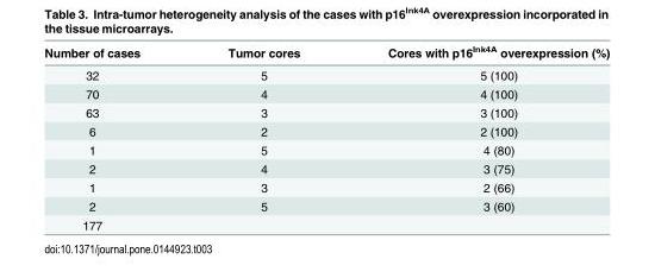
<table><thead><tr><td>Number of cases</td><td>Tumor cores</td><td>Cores with p16<sup>Ink4A</sup> overexpression (%)</td></tr></thead><tbody><tr><td>32</td><td>5</td><td>5 (100)</td></tr><tr><td>70</td><td>4</td><td>4 (100)</td></tr><tr><td>63</td><td>3</td><td>3 (100)</td></tr><tr><td>6</td><td>2</td><td>2 (100)</td></tr><tr><td>1</td><td>5</td><td>4 (80)</td></tr><tr><td>2</td><td>4</td><td>3 (75)</td></tr><tr><td>1</td><td>3</td><td>2 (66)</td></tr><tr><td>2</td><td>5</td><td>3 (60)</td></tr><tr><td>177</td><td></td><td></td></tr></tbody></table>